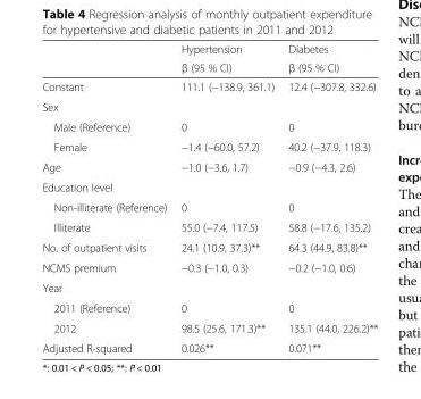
<table><thead><tr><td rowspan="2"></td><td rowspan="2">Hypertension β (95 % CI)</td><td rowspan="2">Diabetes β (95 % CI)</td></tr><tr></tr></thead><tbody><tr><td>Constant</td><td>111.1 (−138.9, 361.1)</td><td>12.4 (−307.8, 332.6)</td></tr><tr><td colspan="3">Sex</td></tr><tr><td>Male (Reference)</td><td>0</td><td>0</td></tr><tr><td>Female</td><td>−1.4 (−60.0, 57.2)</td><td>40.2 (−37.9, 118.3)</td></tr><tr><td>Age</td><td>−1.0 (−3.6, 1.7)</td><td>−0.9 (−4.3, 2.6)</td></tr><tr><td colspan="3">Education level</td></tr><tr><td>Non-illiterate (Reference)</td><td>0</td><td>0</td></tr><tr><td>Illiterate</td><td>55.0 (−7.4, 117.5)</td><td>58.8 (−17.6, 135.2)</td></tr><tr><td>No. of outpatient visits</td><td>24.1 (10.9, 37.3)**</td><td>64.3 (44.9, 83.8)**</td></tr><tr><td>NCMS premium</td><td>−0.3 (−1.0, 0.3)</td><td>−0.2 (−1.0, 0.6)</td></tr><tr><td colspan="3">Year</td></tr><tr><td>2011 (Reference)</td><td>0</td><td>0</td></tr><tr><td>2012</td><td>98.5 (25.6, 171.3)**</td><td>135.1 (44.0, 226.2)**</td></tr><tr><td>Adjusted R-squared</td><td>0.026**</td><td>0.071**</td></tr></tbody></table>